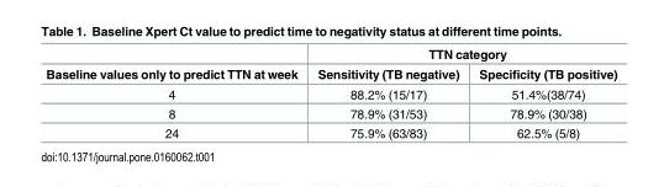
<table><thead><tr><td rowspan="2">Baseline values only to predict TTN at week</td><td colspan="2">TTN category</td></tr><tr><td>Sensitivity (TB negative)</td><td>Specificity (TB positive)</td></tr></thead><tbody><tr><td>4</td><td>88.2% (15/17)</td><td>51.4%(38/74)</td></tr><tr><td>8</td><td>78.9% (31/53)</td><td>78.9% (30/38)</td></tr><tr><td>24</td><td>75.9% (63/83)</td><td>62.5% (5/8)</td></tr></tbody></table>